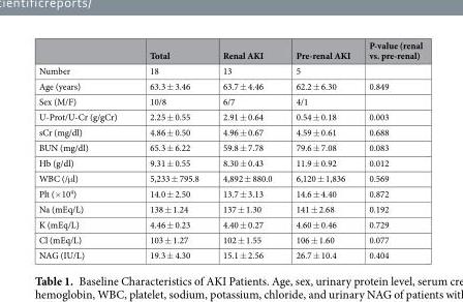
<table><thead><tr><td></td><td>Total</td><td>Renal AKI</td><td>Pre-renal AKI</td><td>P-value (renal vs. pre-renal)</td></tr></thead><tbody><tr><td>Number</td><td>18</td><td>13</td><td>5</td><td></td></tr><tr><td>Age (years)</td><td>63.3 ± 3.46</td><td>63.7 ± 4.46</td><td>62.2 ± 6.30</td><td>0.849</td></tr><tr><td>Sex (M/F)</td><td>10/8</td><td>6/7</td><td>4/1</td><td></td></tr><tr><td>U-Prot/U-Cr (g/gCr)</td><td>2.25 ± 0.55</td><td>2.91 ± 0.64</td><td>0.54 ± 0.18</td><td>0.003</td></tr><tr><td>sCr (mg/dl)</td><td>4.86 ± 0.50</td><td>4.96 ± 0.67</td><td>4.59 ± 0.61</td><td>0.688</td></tr><tr><td>BUN (mg/dl)</td><td>65.3 ± 6.22</td><td>59.8 ± 7.78</td><td>79.6 ± 7.08</td><td>0.083</td></tr><tr><td>Hb (g/dl)</td><td>9.31 ± 0.55</td><td>8.30 ± 0.43</td><td>11.9 ± 0.92</td><td>0.012</td></tr><tr><td>WBC (/μl)</td><td>5,233 ± 795.8</td><td>4,892 ± 880.0</td><td>6,120 ± 1,836</td><td>0.569</td></tr><tr><td>Plt (×10<sup>4</sup>)</td><td>14.0 ± 2.50</td><td>13.7 ± 3.13</td><td>14.6 ± 4.40</td><td>0.872</td></tr><tr><td>Na (mEq/L)</td><td>138 ± 1.24</td><td>137 ± 1.30</td><td>141 ± 2.68</td><td>0.192</td></tr><tr><td>K (mEq/L)</td><td>4.46 ± 0.23</td><td>4.40 ± 0.27</td><td>4.60 ± 0.46</td><td>0.729</td></tr><tr><td>Cl (mEq/L)</td><td>103 ± 1.27</td><td>102 ± 1.55</td><td>106 ± 1.60</td><td>0.077</td></tr><tr><td>NAG (IU/L)</td><td>19.3 ± 4.30</td><td>15.1 ± 2.56</td><td>26.7 ± 10.4</td><td>0.404</td></tr></tbody></table>